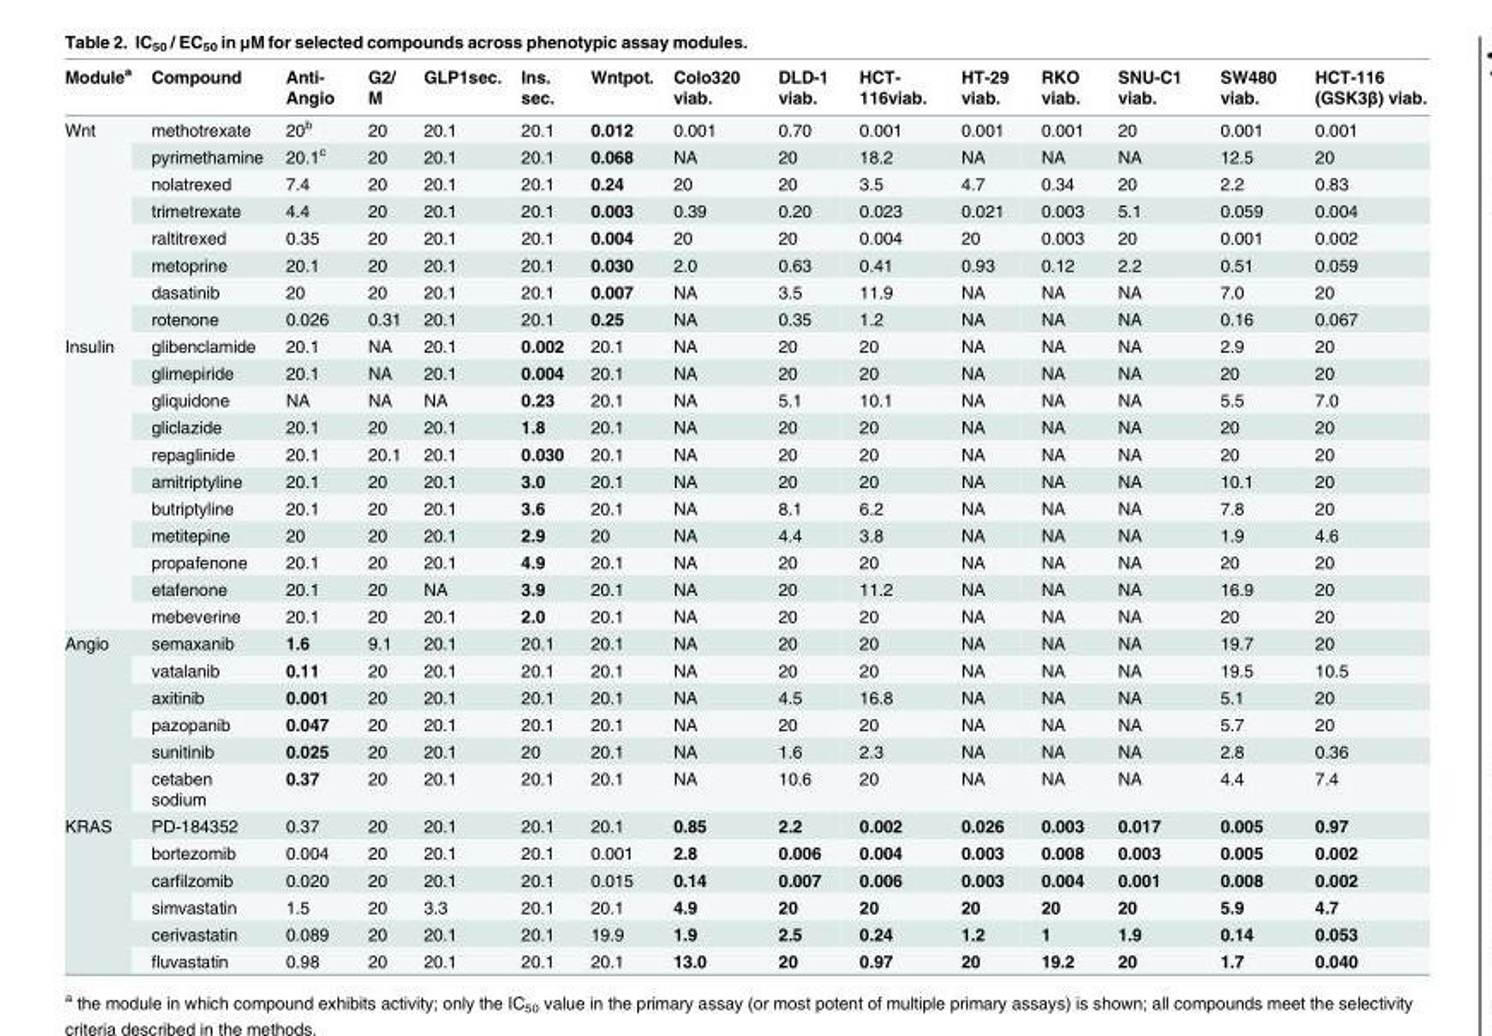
<table><thead><tr><td>Module<sup>a</sup></td><td>Compound</td><td>Anti- Angio</td><td>G2/ M</td><td>GLP1sec.</td><td>Ins. sec.</td><td>Wntpot.</td><td>Colo320 viab.</td><td>DLD-1 viab.</td><td>HCT- 116viab.</td><td>HT-29 viab.</td><td>RKO viab.</td><td>SNU-C1 viab.</td><td>SW480 viab.</td><td>HCT-116 (GSK3β) viab.</td></tr></thead><tbody><tr><td rowspan="8">Wnt</td><td>methotrexate</td><td>20<sup>b</sup></td><td>20</td><td>20.1</td><td>20.1</td><td>0.012</td><td>0.001</td><td>0.70</td><td>0.001</td><td>0.001</td><td>0.001</td><td>20</td><td>0.001</td><td>0.001</td></tr><tr><td>pyrimethamine</td><td>20.1<sup>c</sup></td><td>20</td><td>20.1</td><td>20.1</td><td>0.068</td><td>NA</td><td>20</td><td>18.2</td><td>NA</td><td>NA</td><td>NA</td><td>12.5</td><td>20</td></tr><tr><td>nolatrexed</td><td>7.4</td><td>20</td><td>20.1</td><td>20.1</td><td>0.24</td><td>20</td><td>20</td><td>3.5</td><td>4.7</td><td>0.34</td><td>20</td><td>2.2</td><td>0.83</td></tr><tr><td>trimetrexate</td><td>4.4</td><td>20</td><td>20.1</td><td>20.1</td><td>0.003</td><td>0.39</td><td>0.20</td><td>0.023</td><td>0.021</td><td>0.003</td><td>5.1</td><td>0.059</td><td>0.004</td></tr><tr><td>raltitrexed</td><td>0.35</td><td>20</td><td>20.1</td><td>20.1</td><td>0.004</td><td>20</td><td>20</td><td>0.004</td><td>20</td><td>0.003</td><td>20</td><td>0.001</td><td>0.002</td></tr><tr><td>metoprine</td><td>20.1</td><td>20</td><td>20.1</td><td>20.1</td><td>0.030</td><td>2.0</td><td>0.63</td><td>0.41</td><td>0.93</td><td>0.12</td><td>2.2</td><td>0.51</td><td>0.059</td></tr><tr><td>dasatinib</td><td>20</td><td>20</td><td>20.1</td><td>20.1</td><td>0.007</td><td>NA</td><td>3.5</td><td>11.9</td><td>NA</td><td>NA</td><td>NA</td><td>7.0</td><td>20</td></tr><tr><td>rotenone</td><td>0.026</td><td>0.31</td><td>20.1</td><td>20.1</td><td>0.25</td><td>NA</td><td>0.35</td><td>1.2</td><td>NA</td><td>NA</td><td>NA</td><td>0.16</td><td>0.067</td></tr><tr><td rowspan="11">Insulin</td><td>glibenclamide</td><td>20.1</td><td>NA</td><td>20.1</td><td>0.002</td><td>20.1</td><td>NA</td><td>20</td><td>20</td><td>NA</td><td>NA</td><td>NA</td><td>2.9</td><td>20</td></tr><tr><td>glimepiride</td><td>20.1</td><td>NA</td><td>20.1</td><td>0.004</td><td>20.1</td><td>NA</td><td>20</td><td>20</td><td>NA</td><td>NA</td><td>NA</td><td>20</td><td>20</td></tr><tr><td>gliquidone</td><td>NA</td><td>NA</td><td>NA</td><td>0.23</td><td>20.1</td><td>NA</td><td>5.1</td><td>10.1</td><td>NA</td><td>NA</td><td>NA</td><td>5.5</td><td>7.0</td></tr><tr><td>gliclazide</td><td>20.1</td><td>20</td><td>20.1</td><td>1.8</td><td>20.1</td><td>NA</td><td>20</td><td>20</td><td>NA</td><td>NA</td><td>NA</td><td>20</td><td>20</td></tr><tr><td>repaglinide</td><td>20.1</td><td>20.1</td><td>20.1</td><td>0.030</td><td>20.1</td><td>NA</td><td>20</td><td>20</td><td>NA</td><td>NA</td><td>NA</td><td>20</td><td>20</td></tr><tr><td>amitriptyline</td><td>20.1</td><td>20</td><td>20.1</td><td>3.0</td><td>20.1</td><td>NA</td><td>20</td><td>20</td><td>NA</td><td>NA</td><td>NA</td><td>10.1</td><td>20</td></tr><tr><td>butriptyline</td><td>20.1</td><td>20</td><td>20.1</td><td>3.6</td><td>20.1</td><td>NA</td><td>8.1</td><td>6.2</td><td>NA</td><td>NA</td><td>NA</td><td>7.8</td><td>20</td></tr><tr><td>metitepine</td><td>20</td><td>20</td><td>20.1</td><td>2.9</td><td>20</td><td>NA</td><td>4.4</td><td>3.8</td><td>NA</td><td>NA</td><td>NA</td><td>1.9</td><td>4.6</td></tr><tr><td>propafenone</td><td>20.1</td><td>20</td><td>20.1</td><td>4.9</td><td>20.1</td><td>NA</td><td>20</td><td>20</td><td>NA</td><td>NA</td><td>NA</td><td>20</td><td>20</td></tr><tr><td>etafenone</td><td>20.1</td><td>20</td><td>NA</td><td>3.9</td><td>20.1</td><td>NA</td><td>20</td><td>11.2</td><td>NA</td><td>NA</td><td>NA</td><td>16.9</td><td>20</td></tr><tr><td>mebeverine</td><td>20.1</td><td>20</td><td>20.1</td><td>2.0</td><td>20.1</td><td>NA</td><td>20</td><td>20</td><td>NA</td><td>NA</td><td>NA</td><td>20</td><td>20</td></tr><tr><td rowspan="6">Angio</td><td>semaxanib</td><td>1.6</td><td>9.1</td><td>20.1</td><td>20.1</td><td>20.1</td><td>NA</td><td>20</td><td>20</td><td>NA</td><td>NA</td><td>NA</td><td>19.7</td><td>20</td></tr><tr><td>vatalanib</td><td>0.11</td><td>20</td><td>20.1</td><td>20.1</td><td>20.1</td><td>NA</td><td>20</td><td>20</td><td>NA</td><td>NA</td><td>NA</td><td>19.5</td><td>10.5</td></tr><tr><td>axitinib</td><td>0.001</td><td>20</td><td>20.1</td><td>20.1</td><td>20.1</td><td>NA</td><td>4.5</td><td>16.8</td><td>NA</td><td>NA</td><td>NA</td><td>5.1</td><td>20</td></tr><tr><td>pazopanib</td><td>0.047</td><td>20</td><td>20.1</td><td>20.1</td><td>20.1</td><td>NA</td><td>20</td><td>20</td><td>NA</td><td>NA</td><td>NA</td><td>5.7</td><td>20</td></tr><tr><td>sunitinib</td><td>0.025</td><td>20</td><td>20.1</td><td>20</td><td>20.1</td><td>NA</td><td>1.6</td><td>2.3</td><td>NA</td><td>NA</td><td>NA</td><td>2.8</td><td>0.36</td></tr><tr><td>cetaben sodium</td><td>0.37</td><td>20</td><td>20.1</td><td>20.1</td><td>20.1</td><td>NA</td><td>10.6</td><td>20</td><td>NA</td><td>NA</td><td>NA</td><td>4.4</td><td>7.4</td></tr><tr><td rowspan="6">KRAS</td><td>PD-184352</td><td>0.37</td><td>20</td><td>20.1</td><td>20.1</td><td>20.1</td><td>0.85</td><td>2.2</td><td>0.002</td><td>0.026</td><td>0.003</td><td>0.017</td><td>0.005</td><td>0.97</td></tr><tr><td>bortezomib</td><td>0.004</td><td>20</td><td>20.1</td><td>20.1</td><td>0.001</td><td>2.8</td><td>0.006</td><td>0.004</td><td>0.003</td><td>0.008</td><td>0.003</td><td>0.005</td><td>0.002</td></tr><tr><td>carfilzomib</td><td>0.020</td><td>20</td><td>20.1</td><td>20.1</td><td>0.015</td><td>0.14</td><td>0.007</td><td>0.006</td><td>0.003</td><td>0.004</td><td>0.001</td><td>0.008</td><td>0.002</td></tr><tr><td>simvastatin</td><td>1.5</td><td>20</td><td>3.3</td><td>20.1</td><td>20.1</td><td>4.9</td><td>20</td><td>20</td><td>20</td><td>20</td><td>20</td><td>5.9</td><td>4.7</td></tr><tr><td>cerivastatin</td><td>0.089</td><td>20</td><td>20.1</td><td>20.1</td><td>19.9</td><td>1.9</td><td>2.5</td><td>0.24</td><td>1.2</td><td>1</td><td>1.9</td><td>0.14</td><td>0.053</td></tr><tr><td>fluvastatin</td><td>0.98</td><td>20</td><td>20.1</td><td>20.1</td><td>20.1</td><td>13.0</td><td>20</td><td>0.97</td><td>20</td><td>19.2</td><td>20</td><td>1.7</td><td>0.040</td></tr></tbody></table>